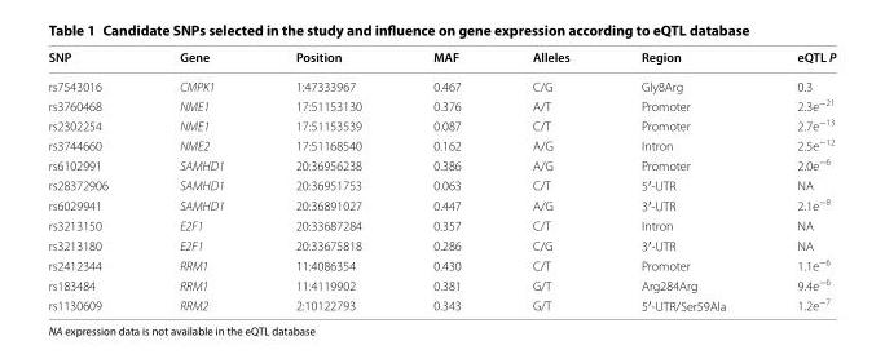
<table><thead><tr><td>SNP</td><td>Gene</td><td>Position</td><td>MAF</td><td>Alleles</td><td>Region</td><td>eQTL P</td></tr></thead><tbody><tr><td>rs7543016</td><td>CMPK1</td><td>1:47333967</td><td>0.467</td><td>C/G</td><td>Gly8Arg</td><td>0.3</td></tr><tr><td>rs3760468</td><td>NME1</td><td>17:51153130</td><td>0.376</td><td>A/T</td><td>Promoter</td><td>2.3e<sup>−21</sup></td></tr><tr><td>rs2302254</td><td>NME1</td><td>17:51153539</td><td>0.087</td><td>C/T</td><td>Promoter</td><td>2.7e<sup>−13</sup></td></tr><tr><td>rs3744660</td><td>NME2</td><td>17:51168540</td><td>0.162</td><td>A/G</td><td>Intron</td><td>2.5e<sup>−12</sup></td></tr><tr><td>rs6102991</td><td>SAMHD1</td><td>20:36956238</td><td>0.386</td><td>A/G</td><td>Promoter</td><td>2.0e<sup>−6</sup></td></tr><tr><td>rs28372906</td><td>SAMHD1</td><td>20:36951753</td><td>0.063</td><td>C/T</td><td>5′‑UTR</td><td>NA</td></tr><tr><td>rs6029941</td><td>SAMHD1</td><td>20:36891027</td><td>0.447</td><td>A/G</td><td>3′‑UTR</td><td>2.1e<sup>−8</sup></td></tr><tr><td>rs3213150</td><td>E2F1</td><td>20:33687284</td><td>0.357</td><td>C/T</td><td>Intron</td><td>NA</td></tr><tr><td>rs3213180</td><td>E2F1</td><td>20:33675818</td><td>0.286</td><td>C/G</td><td>3′‑UTR</td><td>NA</td></tr><tr><td>rs2412344</td><td>RRM1</td><td>11:4086354</td><td>0.430</td><td>C/T</td><td>Promoter</td><td>1.1e<sup>−6</sup></td></tr><tr><td>rs183484</td><td>RRM1</td><td>11:4119902</td><td>0.381</td><td>G/T</td><td>Arg284Arg</td><td>9.4e<sup>−6</sup></td></tr><tr><td>rs1130609</td><td>RRM2</td><td>2:10122793</td><td>0.343</td><td>G/T</td><td>5′‑UTR/Ser59Ala</td><td>1.2e<sup>−7</sup></td></tr></tbody></table>